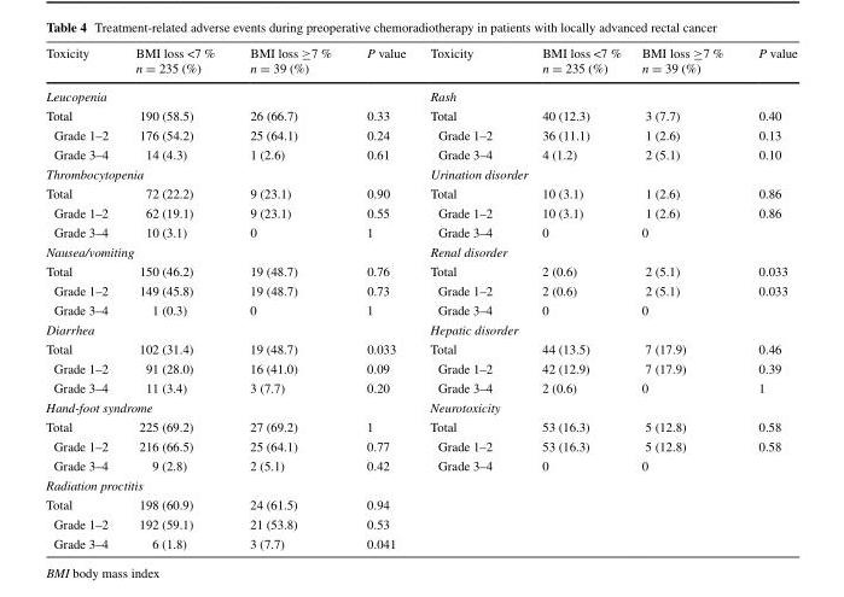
<table><thead><tr><td>Toxicity</td><td>BMI loss &lt;7 % n = 235 (%)</td><td>BMI loss ≥7 % n = 39 (%)</td><td>P value</td><td>Toxicity</td><td>BMI loss &lt;7 % n = 235 (%)</td><td>BMI loss ≥7 % n = 39 (%)</td><td>P value</td></tr></thead><tbody><tr><td colspan="4">Leucopenia</td><td colspan="4">Rash</td></tr><tr><td>Total</td><td>190 (58.5)</td><td>26 (66.7)</td><td>0.33</td><td>Total</td><td>40 (12.3)</td><td>3 (7.7)</td><td>0.40</td></tr><tr><td>Grade 1–2</td><td>176 (54.2)</td><td>25 (64.1)</td><td>0.24</td><td>Grade 1–2</td><td>36 (11.1)</td><td>1 (2.6)</td><td>0.13</td></tr><tr><td>Grade 3–4</td><td>14 (4.3)</td><td>1 (2.6)</td><td>0.61</td><td>Grade 3–4</td><td>4 (1.2)</td><td>2 (5.1)</td><td>0.10</td></tr><tr><td colspan="4">Thrombocytopenia</td><td colspan="4">Urination disorder</td></tr><tr><td>Total</td><td>72 (22.2)</td><td>9 (23.1)</td><td>0.90</td><td>Total</td><td>10 (3.1)</td><td>1 (2.6)</td><td>0.86</td></tr><tr><td>Grade 1–2</td><td>62 (19.1)</td><td>9 (23.1)</td><td>0.55</td><td>Grade 1–2</td><td>10 (3.1)</td><td>1 (2.6)</td><td>0.86</td></tr><tr><td>Grade 3–4</td><td>10 (3.1)</td><td>0</td><td>1</td><td>Grade 3–4</td><td>0</td><td>0</td><td></td></tr><tr><td colspan="4">Nausea/vomiting</td><td colspan="4">Renal disorder</td></tr><tr><td>Total</td><td>150 (46.2)</td><td>19 (48.7)</td><td>0.76</td><td>Total</td><td>2 (0.6)</td><td>2 (5.1)</td><td>0.033</td></tr><tr><td>Grade 1–2</td><td>149 (45.8)</td><td>19 (48.7)</td><td>0.73</td><td>Grade 1–2</td><td>2 (0.6)</td><td>2 (5.1)</td><td>0.033</td></tr><tr><td>Grade 3–4</td><td>1 (0.3)</td><td>0</td><td>1</td><td>Grade 3–4</td><td>0</td><td>0</td><td></td></tr><tr><td colspan="4">Diarrhea</td><td colspan="4">Hepatic disorder</td></tr><tr><td>Total</td><td>102 (31.4)</td><td>19 (48.7)</td><td>0.033</td><td>Total</td><td>44 (13.5)</td><td>7 (17.9)</td><td>0.46</td></tr><tr><td>Grade 1–2</td><td>91 (28.0)</td><td>16 (41.0)</td><td>0.09</td><td>Grade 1–2</td><td>42 (12.9)</td><td>7 (17.9)</td><td>0.39</td></tr><tr><td>Grade 3–4</td><td>11 (3.4)</td><td>3 (7.7)</td><td>0.20</td><td>Grade 3–4</td><td>2 (0.6)</td><td>0</td><td>1</td></tr><tr><td colspan="4">Hand-foot syndrome</td><td colspan="4">Neurotoxicity</td></tr><tr><td>Total</td><td>225 (69.2)</td><td>27 (69.2)</td><td>1</td><td>Total</td><td>53 (16.3)</td><td>5 (12.8)</td><td>0.58</td></tr><tr><td>Grade 1–2</td><td>216 (66.5)</td><td>25 (64.1)</td><td>0.77</td><td>Grade 1–2</td><td>53 (16.3)</td><td>5 (12.8)</td><td>0.58</td></tr><tr><td>Grade 3–4</td><td>9 (2.8)</td><td>2 (5.1)</td><td>0.42</td><td>Grade 3–4</td><td>0</td><td>0</td><td></td></tr><tr><td colspan="8">Radiation proctitis</td></tr><tr><td>Total</td><td>198 (60.9)</td><td>24 (61.5)</td><td>0.94</td><td></td><td></td><td></td><td></td></tr><tr><td>Grade 1–2</td><td>192 (59.1)</td><td>21 (53.8)</td><td>0.53</td><td></td><td></td><td></td><td></td></tr><tr><td>Grade 3–4</td><td>6 (1.8)</td><td>3 (7.7)</td><td>0.041</td><td></td><td></td><td></td><td></td></tr></tbody></table>